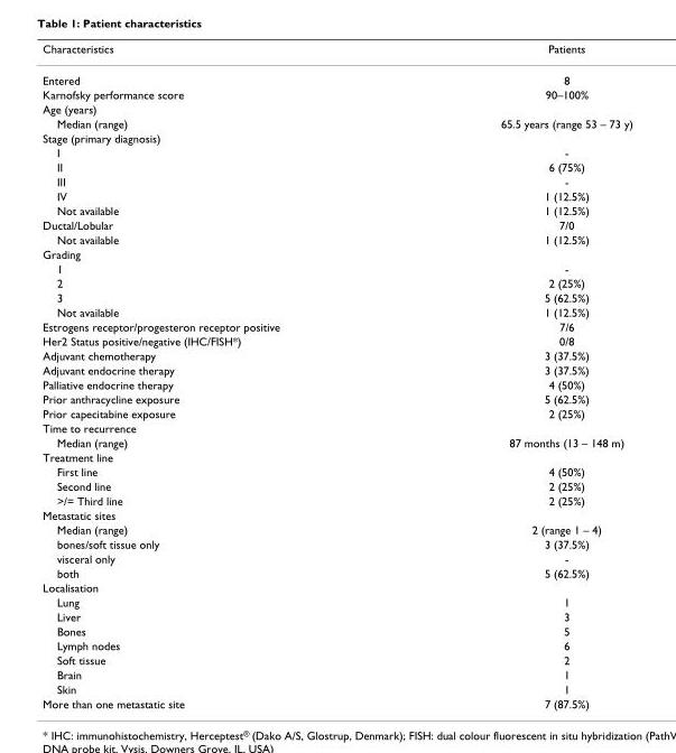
<table><thead><tr><td>Characteristics</td><td>Patients</td></tr></thead><tbody><tr><td>Entered</td><td>8</td></tr><tr><td>Karnofsky performance score</td><td>90–100%</td></tr><tr><td colspan="2">Age (years)</td></tr><tr><td>Median (range)</td><td>65.5 years (range 53 – 73 y)</td></tr><tr><td colspan="2">Stage (primary diagnosis)</td></tr><tr><td>I</td><td>-</td></tr><tr><td>II</td><td>6 (75%)</td></tr><tr><td>III</td><td>-</td></tr><tr><td>IV</td><td>1 (12.5%)</td></tr><tr><td>Not available</td><td>1 (12.5%)</td></tr><tr><td>Ductal/Lobular</td><td>7/0</td></tr><tr><td>Not available</td><td>1 (12.5%)</td></tr><tr><td colspan="2">Grading</td></tr><tr><td>1</td><td>-</td></tr><tr><td>2</td><td>2 (25%)</td></tr><tr><td>3</td><td>5 (62.5%)</td></tr><tr><td>Not available</td><td>1 (12.5%)</td></tr><tr><td>Estrogens receptor/progesteron receptor positive</td><td>7/6</td></tr><tr><td>Her2 Status positive/negative (IHC/FISH*)</td><td>0/8</td></tr><tr><td>Adjuvant chemotherapy</td><td>3 (37.5%)</td></tr><tr><td>Adjuvant endocrine therapy</td><td>3 (37.5%)</td></tr><tr><td>Palliative endocrine therapy</td><td>4 (50%)</td></tr><tr><td>Prior anthracycline exposure</td><td>5 (62.5%)</td></tr><tr><td>Prior capecitabine exposure</td><td>2 (25%)</td></tr><tr><td colspan="2">Time to recurrence</td></tr><tr><td>Median (range)</td><td>87 months (13 – 148 m)</td></tr><tr><td colspan="2">Treatment line</td></tr><tr><td>First line</td><td>4 (50%)</td></tr><tr><td>Second line</td><td>2 (25%)</td></tr><tr><td>&gt;/= Third line</td><td>2 (25%)</td></tr><tr><td colspan="2">Metastatic sites</td></tr><tr><td>Median (range)</td><td>2 (range 1 – 4)</td></tr><tr><td>bones/soft tissue only</td><td>3 (37.5%)</td></tr><tr><td>visceral only</td><td>-</td></tr><tr><td>both</td><td>5 (62.5%)</td></tr><tr><td colspan="2">Localisation</td></tr><tr><td>Lung</td><td>1</td></tr><tr><td>Liver</td><td>3</td></tr><tr><td>Bones</td><td>5</td></tr><tr><td>Lymph nodes</td><td>6</td></tr><tr><td>Soft tissue</td><td>2</td></tr><tr><td>Brain</td><td>1</td></tr><tr><td>Skin</td><td>1</td></tr><tr><td>More than one metastatic site</td><td>7 (87.5%)</td></tr></tbody></table>